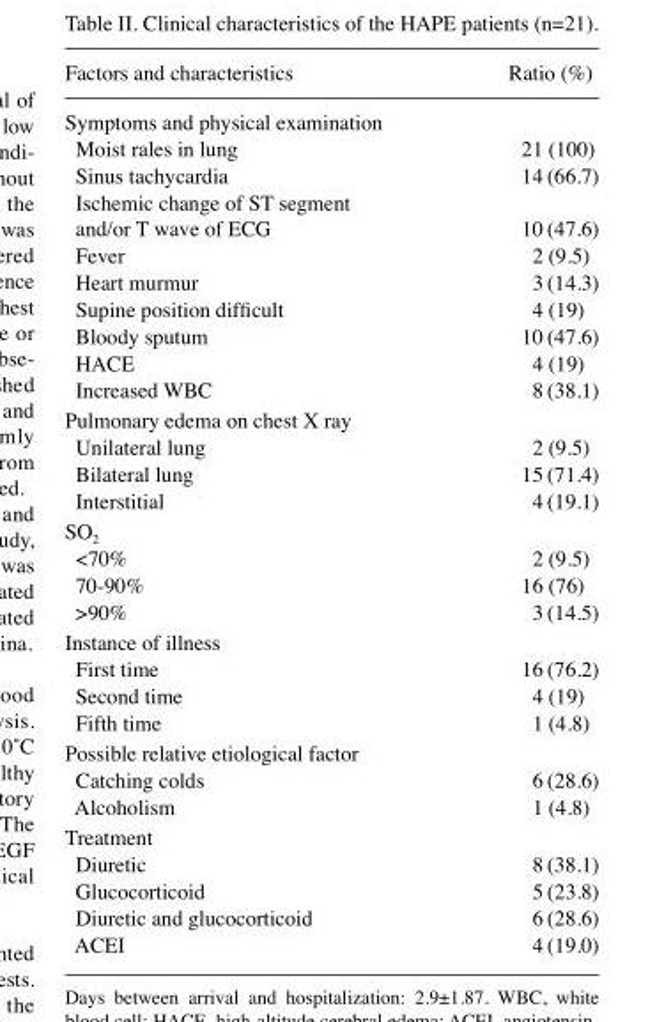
<table><thead><tr><td>Factors and characteristics</td><td>Ratio (%)</td></tr></thead><tbody><tr><td colspan="2">Symptoms and physical examination</td></tr><tr><td>Moist rales in lung</td><td>21 (100)</td></tr><tr><td>Sinus tachycardia</td><td>14 (66.7)</td></tr><tr><td>Ischemic change of ST segment and/or T wave of ECG</td><td>10 (47.6)</td></tr><tr><td>Fever</td><td>2 (9.5)</td></tr><tr><td>Heart murmur</td><td>3 (14.3)</td></tr><tr><td>Supine position difficult</td><td>4 (19)</td></tr><tr><td>Bloody sputum</td><td>10 (47.6)</td></tr><tr><td>HACE</td><td>4 (19)</td></tr><tr><td>Increased WBC</td><td>8 (38.1)</td></tr><tr><td colspan="2">Pulmonary edema on chest X ray</td></tr><tr><td>Unilateral lung</td><td>2 (9.5)</td></tr><tr><td>Bilateral lung</td><td>15 (71.4)</td></tr><tr><td>Interstitial</td><td>4 (19.1)</td></tr><tr><td colspan="2">SO<sub>2</sub></td></tr><tr><td>&lt;70%</td><td>2 (9.5)</td></tr><tr><td>70-90%</td><td>16 (76)</td></tr><tr><td>&gt;90%</td><td>3 (14.5)</td></tr><tr><td colspan="2">Instance of illness</td></tr><tr><td>First time</td><td>16 (76.2)</td></tr><tr><td>Second time</td><td>4 (19)</td></tr><tr><td>Fifth time</td><td>1 (4.8)</td></tr><tr><td colspan="2">Possible relative etiological factor</td></tr><tr><td>Catching colds</td><td>6 (28.6)</td></tr><tr><td>Alcoholism</td><td>1 (4.8)</td></tr><tr><td colspan="2">Treatment</td></tr><tr><td>Diuretic</td><td>8 (38.1)</td></tr><tr><td>Glucocorticoid</td><td>5 (23.8)</td></tr><tr><td>Diuretic and glucocorticoid</td><td>6 (28.6)</td></tr><tr><td>ACEI</td><td>4 (19.0)</td></tr></tbody></table>